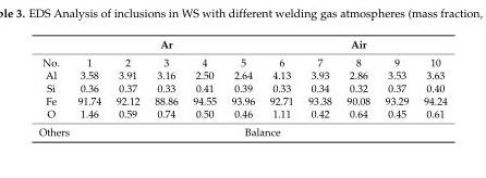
<table><thead><tr><td rowspan="2">No.</td><td colspan="5">Ar</td><td colspan="5">Air</td></tr><tr><td>1</td><td>2</td><td>3</td><td>4</td><td>5</td><td>6</td><td>7</td><td>8</td><td>9</td><td>10</td></tr></thead><tbody><tr><td>Al</td><td>3.58</td><td>3.91</td><td>3.16</td><td>2.50</td><td>2.64</td><td>4.13</td><td>3.93</td><td>2.86</td><td>3.53</td><td>3.63</td></tr><tr><td>Si</td><td>0.36</td><td>0.37</td><td>0.33</td><td>0.41</td><td>0.39</td><td>0.33</td><td>0.34</td><td>0.32</td><td>0.37</td><td>0.40</td></tr><tr><td>Fe</td><td>91.74</td><td>92.12</td><td>88.86</td><td>94.55</td><td>93.96</td><td>92.71</td><td>93.38</td><td>90.08</td><td>93.29</td><td>94.24</td></tr><tr><td>O</td><td>1.46</td><td>0.59</td><td>0.74</td><td>0.50</td><td>0.46</td><td>1.11</td><td>0.42</td><td>0.64</td><td>0.45</td><td>0.61</td></tr><tr><td>Others</td><td colspan="10">Balance</td></tr></tbody></table>